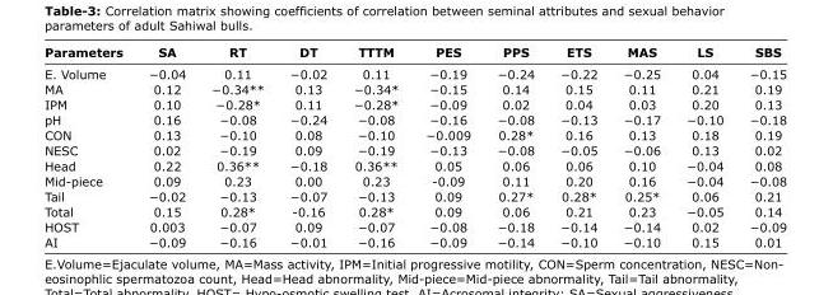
<table><thead><tr><td>Parameters</td><td>SA</td><td>RT</td><td>DT</td><td>TTTM</td><td>PES</td><td>PPS</td><td>ETS</td><td>MAS</td><td>LS</td><td>SBS</td></tr></thead><tbody><tr><td>E. Volume</td><td>−0.04</td><td>0.11</td><td>−0.02</td><td>0.11</td><td>−0.19</td><td>−0.24</td><td>−0.22</td><td>−0.25</td><td>0.04</td><td>−0.15</td></tr><tr><td>MA</td><td>0.12</td><td>−0.34**</td><td>0.13</td><td>−0.34*</td><td>−0.15</td><td>0.14</td><td>0.15</td><td>0.11</td><td>0.21</td><td>0.19</td></tr><tr><td>IPM</td><td>0.10</td><td>−0.28*</td><td>0.11</td><td>−0.28*</td><td>−0.09</td><td>0.02</td><td>0.04</td><td>0.03</td><td>0.20</td><td>0.13</td></tr><tr><td>pH</td><td>0.16</td><td>−0.08</td><td>−0.24</td><td>−0.08</td><td>−0.16</td><td>−0.08</td><td>−0.13</td><td>−0.17</td><td>−0.10</td><td>−0.18</td></tr><tr><td>CON</td><td>0.13</td><td>−0.10</td><td>0.08</td><td>−0.10</td><td>−0.009</td><td>0.28*</td><td>0.16</td><td>0.13</td><td>0.18</td><td>0.19</td></tr><tr><td>NESC</td><td>0.02</td><td>−0.19</td><td>0.09</td><td>−0.19</td><td>−0.13</td><td>−0.08</td><td>−0.05</td><td>−0.06</td><td>0.13</td><td>0.02</td></tr><tr><td>Head</td><td>0.22</td><td>0.36**</td><td>−0.18</td><td>0.36**</td><td>0.05</td><td>0.06</td><td>0.06</td><td>0.10</td><td>−0.04</td><td>0.08</td></tr><tr><td>Mid-piece</td><td>0.09</td><td>0.23</td><td>0.00</td><td>0.23</td><td>-0.09</td><td>0.11</td><td>0.20</td><td>0.16</td><td>−0.04</td><td>−0.08</td></tr><tr><td>Tail</td><td>−0.02</td><td>−0.13</td><td>−0.07</td><td>−0.13</td><td>0.09</td><td>0.27*</td><td>0.28*</td><td>0.25*</td><td>0.06</td><td>0.21</td></tr><tr><td>Total</td><td>0.15</td><td>0.28*</td><td>-0.16</td><td>0.28*</td><td>0.09</td><td>0.06</td><td>0.21</td><td>0.23</td><td>−0.05</td><td>0.14</td></tr><tr><td>HOST</td><td>0.003</td><td>−0.07</td><td>0.09</td><td>−0.07</td><td>−0.08</td><td>−0.18</td><td>−0.14</td><td>−0.14</td><td>0.02</td><td>−0.09</td></tr><tr><td>AI</td><td>−0.09</td><td>−0.16</td><td>−0.01</td><td>−0.16</td><td>−0.09</td><td>−0.14</td><td>−0.10</td><td>−0.10</td><td>0.15</td><td>0.01</td></tr></tbody></table>